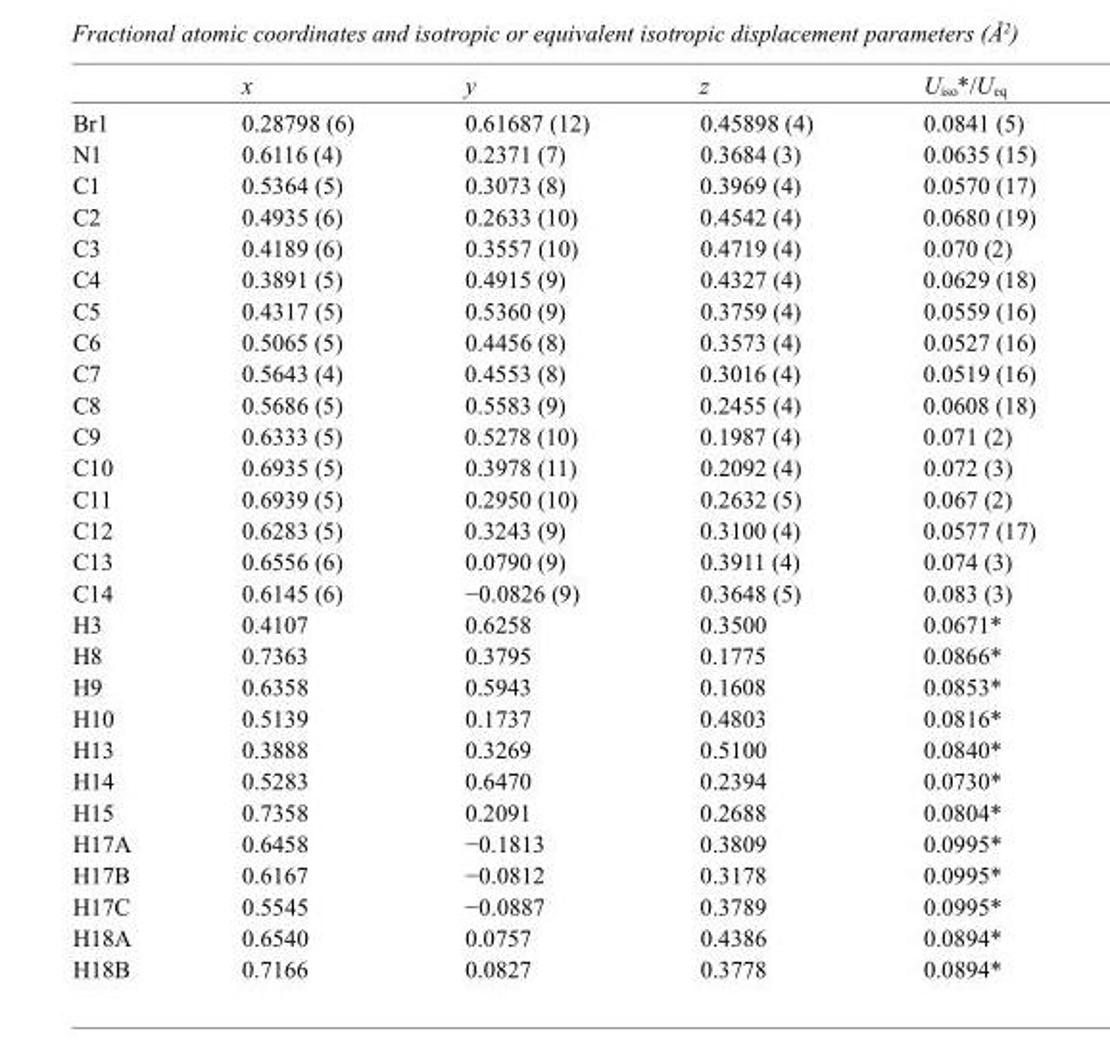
<table><thead><tr><td></td><td>x</td><td>y</td><td>z</td><td>U<sub>iso</sub>*/U<sub>eq</sub></td></tr></thead><tbody><tr><td>Br1</td><td>0.28798 (6)</td><td>0.61687 (12)</td><td>0.45898 (4)</td><td>0.0841 (5)</td></tr><tr><td>N1</td><td>0.6116 (4)</td><td>0.2371 (7)</td><td>0.3684 (3)</td><td>0.0635 (15)</td></tr><tr><td>C1</td><td>0.5364 (5)</td><td>0.3073 (8)</td><td>0.3969 (4)</td><td>0.0570 (17)</td></tr><tr><td>C2</td><td>0.4935 (6)</td><td>0.2633 (10)</td><td>0.4542 (4)</td><td>0.0680 (19)</td></tr><tr><td>C3</td><td>0.4189 (6)</td><td>0.3557 (10)</td><td>0.4719 (4)</td><td>0.070 (2)</td></tr><tr><td>C4</td><td>0.3891 (5)</td><td>0.4915 (9)</td><td>0.4327 (4)</td><td>0.0629 (18)</td></tr><tr><td>C5</td><td>0.4317 (5)</td><td>0.5360 (9)</td><td>0.3759 (4)</td><td>0.0559 (16)</td></tr><tr><td>C6</td><td>0.5065 (5)</td><td>0.4456 (8)</td><td>0.3573 (4)</td><td>0.0527 (16)</td></tr><tr><td>C7</td><td>0.5643 (4)</td><td>0.4553 (8)</td><td>0.3016 (4)</td><td>0.0519 (16)</td></tr><tr><td>C8</td><td>0.5686 (5)</td><td>0.5583 (9)</td><td>0.2455 (4)</td><td>0.0608 (18)</td></tr><tr><td>C9</td><td>0.6333 (5)</td><td>0.5278 (10)</td><td>0.1987 (4)</td><td>0.071 (2)</td></tr><tr><td>C10</td><td>0.6935 (5)</td><td>0.3978 (11)</td><td>0.2092 (4)</td><td>0.072 (3)</td></tr><tr><td>C11</td><td>0.6939 (5)</td><td>0.2950 (10)</td><td>0.2632 (5)</td><td>0.067 (2)</td></tr><tr><td>C12</td><td>0.6283 (5)</td><td>0.3243 (9)</td><td>0.3100 (4)</td><td>0.0577 (17)</td></tr><tr><td>C13</td><td>0.6556 (6)</td><td>0.0790 (9)</td><td>0.3911 (4)</td><td>0.074 (3)</td></tr><tr><td>C14</td><td>0.6145 (6)</td><td>−0.0826 (9)</td><td>0.3648 (5)</td><td>0.083 (3)</td></tr><tr><td>H3</td><td>0.4107</td><td>0.6258</td><td>0.3500</td><td>0.0671*</td></tr><tr><td>H8</td><td>0.7363</td><td>0.3795</td><td>0.1775</td><td>0.0866*</td></tr><tr><td>H9</td><td>0.6358</td><td>0.5943</td><td>0.1608</td><td>0.0853*</td></tr><tr><td>H10</td><td>0.5139</td><td>0.1737</td><td>0.4803</td><td>0.0816*</td></tr><tr><td>H13</td><td>0.3888</td><td>0.3269</td><td>0.5100</td><td>0.0840*</td></tr><tr><td>H14</td><td>0.5283</td><td>0.6470</td><td>0.2394</td><td>0.0730*</td></tr><tr><td>H15</td><td>0.7358</td><td>0.2091</td><td>0.2688</td><td>0.0804*</td></tr><tr><td>H17A</td><td>0.6458</td><td>−0.1813</td><td>0.3809</td><td>0.0995*</td></tr><tr><td>H17B</td><td>0.6167</td><td>−0.0812</td><td>0.3178</td><td>0.0995*</td></tr><tr><td>H17C</td><td>0.5545</td><td>−0.0887</td><td>0.3789</td><td>0.0995*</td></tr><tr><td>H18A</td><td>0.6540</td><td>0.0757</td><td>0.4386</td><td>0.0894*</td></tr><tr><td>H18B</td><td>0.7166</td><td>0.0827</td><td>0.3778</td><td>0.0894*</td></tr></tbody></table>